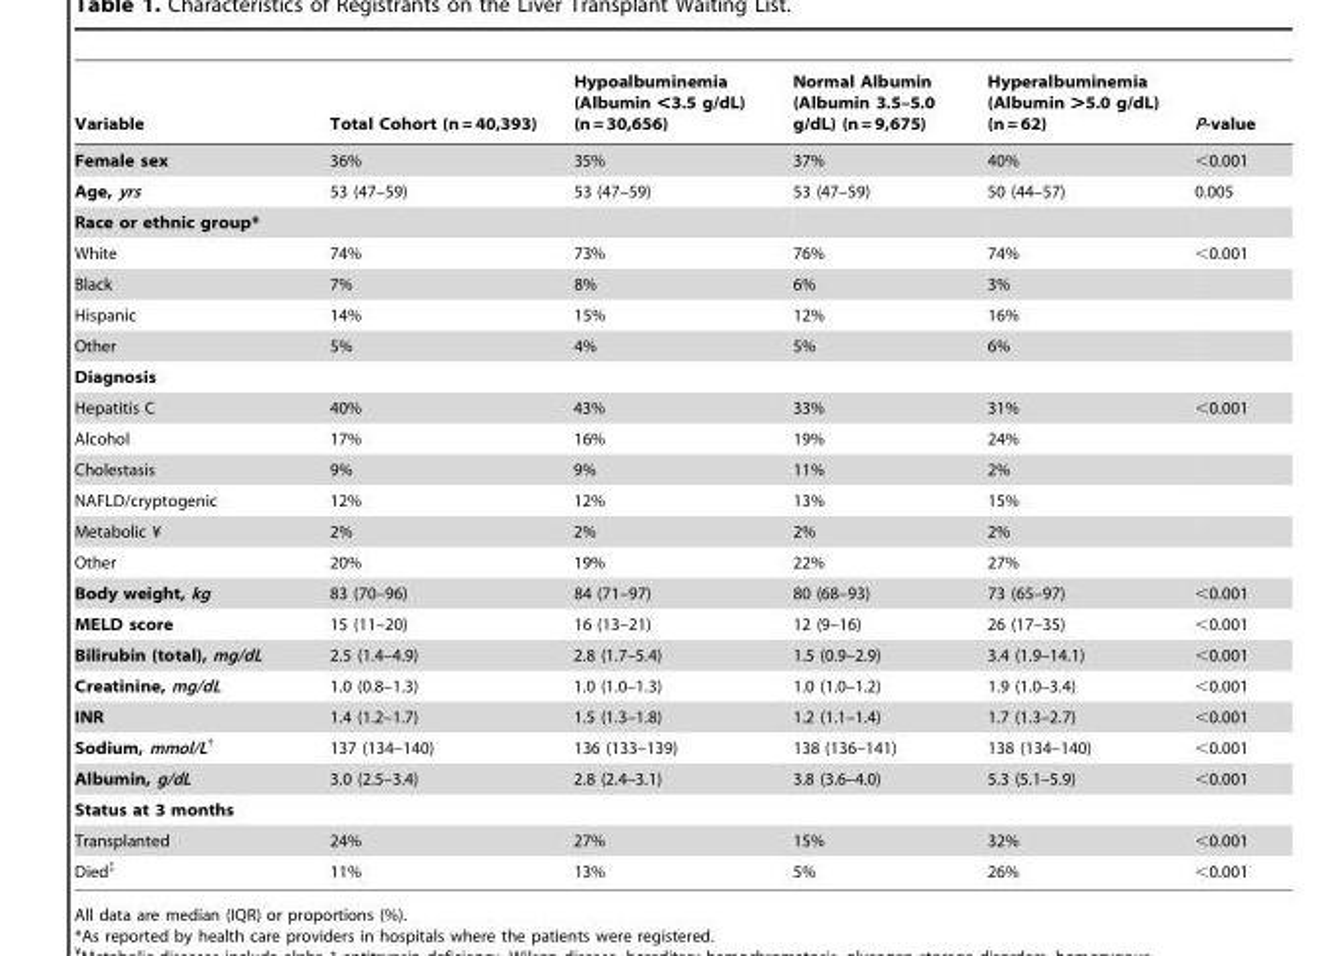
<table><thead><tr><td>Variable</td><td>Total Cohort (n = 40,393)</td><td>Hypoalbuminemia (Albumin &lt;3.5 g/dL) (n = 30,656)</td><td>Normal Albumin (Albumin 3.5–5.0 g/dL) (n = 9,675)</td><td>Hyperalbuminemia (Albumin &gt;5.0 g/dL) (n = 62)</td><td>P-value</td></tr></thead><tbody><tr><td>Female sex</td><td>36%</td><td>35%</td><td>37%</td><td>40%</td><td>&lt;0.001</td></tr><tr><td>Age, yrs</td><td>53 (47–59)</td><td>53 (47–59)</td><td>53 (47–59)</td><td>50 (44–57)</td><td>0.005</td></tr><tr><td colspan="6">Race or ethnic group*</td></tr><tr><td>White</td><td>74%</td><td>73%</td><td>76%</td><td>74%</td><td>&lt;0.001</td></tr><tr><td>Black</td><td>7%</td><td>8%</td><td>6%</td><td>3%</td><td></td></tr><tr><td>Hispanic</td><td>14%</td><td>15%</td><td>12%</td><td>16%</td><td></td></tr><tr><td>Other</td><td>5%</td><td>4%</td><td>5%</td><td>6%</td><td></td></tr><tr><td colspan="6">Diagnosis</td></tr><tr><td>Hepatitis C</td><td>40%</td><td>43%</td><td>33%</td><td>31%</td><td>&lt;0.001</td></tr><tr><td>Alcohol</td><td>17%</td><td>16%</td><td>19%</td><td>24%</td><td></td></tr><tr><td>Cholestasis</td><td>9%</td><td>9%</td><td>11%</td><td>2%</td><td></td></tr><tr><td>NAFLD/cryptogenic</td><td>12%</td><td>12%</td><td>13%</td><td>15%</td><td></td></tr><tr><td>Metabolic ¥</td><td>2%</td><td>2%</td><td>2%</td><td>2%</td><td></td></tr><tr><td>Other</td><td>20%</td><td>19%</td><td>22%</td><td>27%</td><td></td></tr><tr><td>Body weight, kg</td><td>83 (70–96)</td><td>84 (71–97)</td><td>80 (68–93)</td><td>73 (65–97)</td><td>&lt;0.001</td></tr><tr><td>MELD score</td><td>15 (11–20)</td><td>16 (13–21)</td><td>12 (9–16)</td><td>26 (17–35)</td><td>&lt;0.001</td></tr><tr><td>Bilirubin (total), mg/dL</td><td>2.5 (1.4–4.9)</td><td>2.8 (1.7–5.4)</td><td>1.5 (0.9–2.9)</td><td>3.4 (1.9–14.1)</td><td>&lt;0.001</td></tr><tr><td>Creatinine, mg/dL</td><td>1.0 (0.8–1.3)</td><td>1.0 (1.0–1.3)</td><td>1.0 (1.0–1.2)</td><td>1.9 (1.0–3.4)</td><td>&lt;0.001</td></tr><tr><td>INR</td><td>1.4 (1.2–1.7)</td><td>1.5 (1.3–1.8)</td><td>1.2 (1.1–1.4)</td><td>1.7 (1.3–2.7)</td><td>&lt;0.001</td></tr><tr><td>Sodium, mmol/L†</td><td>137 (134–140)</td><td>136 (133–139)</td><td>138 (136–141)</td><td>138 (134–140)</td><td>&lt;0.001</td></tr><tr><td>Albumin, g/dL</td><td>3.0 (2.5–3.4)</td><td>2.8 (2.4–3.1)</td><td>3.8 (3.6–4.0)</td><td>5.3 (5.1–5.9)</td><td>&lt;0.001</td></tr><tr><td colspan="6">Status at 3 months</td></tr><tr><td>Transplanted</td><td>24%</td><td>27%</td><td>15%</td><td>32%</td><td>&lt;0.001</td></tr><tr><td>Died‡</td><td>11%</td><td>13%</td><td>5%</td><td>26%</td><td>&lt;0.001</td></tr></tbody></table>